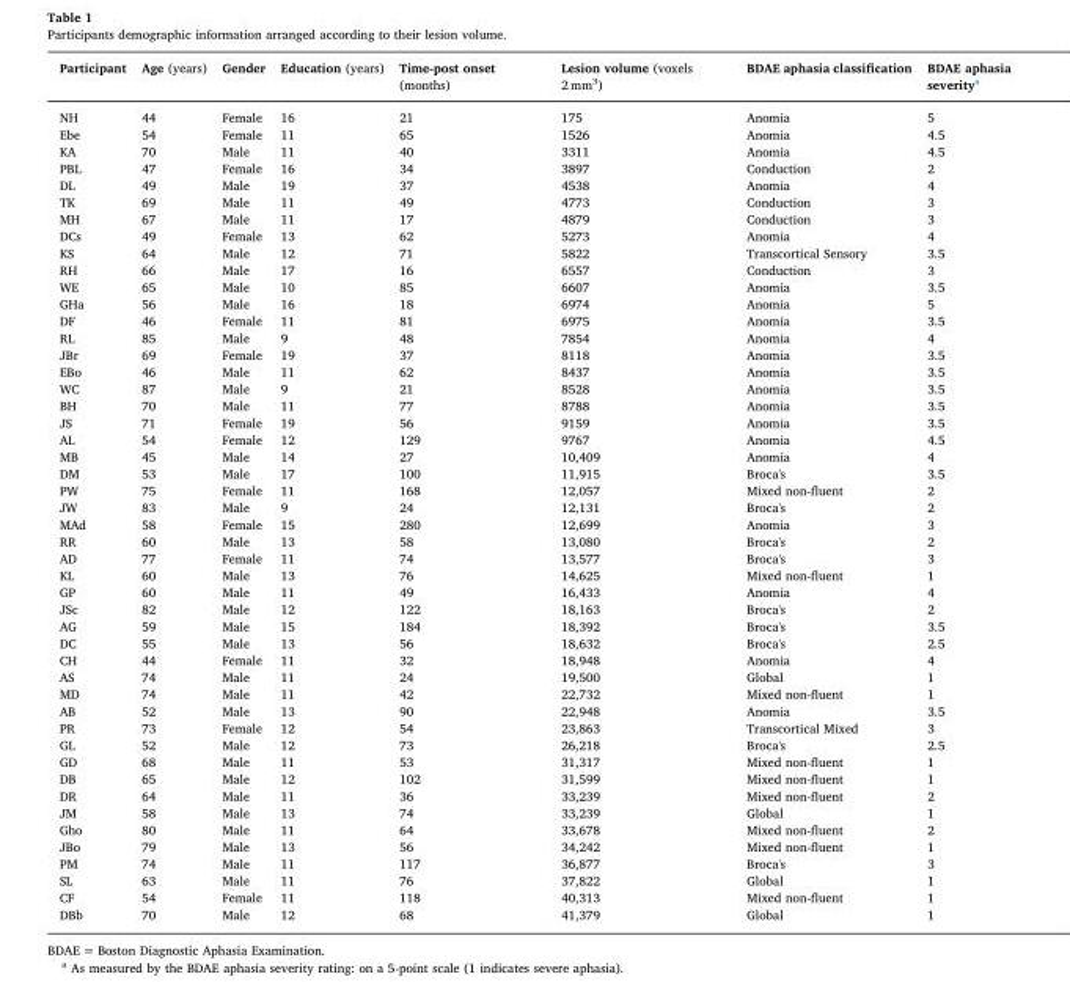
<table><thead><tr><td>Participant</td><td>Age (years)</td><td>Gender</td><td>Education (years)</td><td>Time-post onset (months)</td><td>Lesion volume (voxels 2 mm<sup>3</sup>)</td><td>BDAE aphasia classification</td><td>BDAE aphasia severity<sup>a</sup></td></tr></thead><tbody><tr><td>NH</td><td>44</td><td>Female</td><td>16</td><td>21</td><td>175</td><td>Anomia</td><td>5</td></tr><tr><td>Ebe</td><td>54</td><td>Female</td><td>11</td><td>65</td><td>1526</td><td>Anomia</td><td>4.5</td></tr><tr><td>KA</td><td>70</td><td>Male</td><td>11</td><td>40</td><td>3311</td><td>Anomia</td><td>4.5</td></tr><tr><td>PBL</td><td>47</td><td>Female</td><td>16</td><td>34</td><td>3897</td><td>Conduction</td><td>2</td></tr><tr><td>DL</td><td>49</td><td>Male</td><td>19</td><td>37</td><td>4538</td><td>Anomia</td><td>4</td></tr><tr><td>TK</td><td>69</td><td>Male</td><td>11</td><td>49</td><td>4773</td><td>Conduction</td><td>3</td></tr><tr><td>MH</td><td>67</td><td>Male</td><td>11</td><td>17</td><td>4879</td><td>Conduction</td><td>3</td></tr><tr><td>DCs</td><td>49</td><td>Female</td><td>13</td><td>62</td><td>5273</td><td>Anomia</td><td>4</td></tr><tr><td>KS</td><td>64</td><td>Male</td><td>12</td><td>71</td><td>5822</td><td>Transcortical Sensory</td><td>3.5</td></tr><tr><td>RH</td><td>66</td><td>Male</td><td>17</td><td>16</td><td>6557</td><td>Conduction</td><td>3</td></tr><tr><td>WE</td><td>65</td><td>Male</td><td>10</td><td>85</td><td>6607</td><td>Anomia</td><td>3.5</td></tr><tr><td>GHa</td><td>56</td><td>Male</td><td>16</td><td>18</td><td>6974</td><td>Anomia</td><td>5</td></tr><tr><td>DF</td><td>46</td><td>Female</td><td>11</td><td>81</td><td>6975</td><td>Anomia</td><td>3.5</td></tr><tr><td>RL</td><td>85</td><td>Male</td><td>9</td><td>48</td><td>7854</td><td>Anomia</td><td>4</td></tr><tr><td>JBr</td><td>69</td><td>Female</td><td>19</td><td>37</td><td>8118</td><td>Anomia</td><td>3.5</td></tr><tr><td>EBo</td><td>46</td><td>Male</td><td>11</td><td>62</td><td>8437</td><td>Anomia</td><td>3.5</td></tr><tr><td>WC</td><td>87</td><td>Male</td><td>9</td><td>21</td><td>8528</td><td>Anomia</td><td>3.5</td></tr><tr><td>BH</td><td>70</td><td>Male</td><td>11</td><td>77</td><td>8788</td><td>Anomia</td><td>3.5</td></tr><tr><td>JS</td><td>71</td><td>Female</td><td>19</td><td>56</td><td>9159</td><td>Anomia</td><td>3.5</td></tr><tr><td>AL</td><td>54</td><td>Female</td><td>12</td><td>129</td><td>9767</td><td>Anomia</td><td>4.5</td></tr><tr><td>MB</td><td>45</td><td>Male</td><td>14</td><td>27</td><td>10,409</td><td>Anomia</td><td>4</td></tr><tr><td>DM</td><td>53</td><td>Male</td><td>17</td><td>100</td><td>11,915</td><td>Broca&#x27;s</td><td>3.5</td></tr><tr><td>PW</td><td>75</td><td>Female</td><td>11</td><td>168</td><td>12,057</td><td>Mixed non-fluent</td><td>2</td></tr><tr><td>JW</td><td>83</td><td>Male</td><td>9</td><td>24</td><td>12,131</td><td>Broca&#x27;s</td><td>2</td></tr><tr><td>MAd</td><td>58</td><td>Female</td><td>15</td><td>280</td><td>12,699</td><td>Anomia</td><td>3</td></tr><tr><td>RR</td><td>60</td><td>Male</td><td>13</td><td>58</td><td>13,080</td><td>Broca&#x27;s</td><td>2</td></tr><tr><td>AD</td><td>77</td><td>Female</td><td>11</td><td>74</td><td>13,577</td><td>Broca&#x27;s</td><td>3</td></tr><tr><td>KL</td><td>60</td><td>Male</td><td>13</td><td>76</td><td>14,625</td><td>Mixed non-fluent</td><td>1</td></tr><tr><td>GP</td><td>60</td><td>Male</td><td>11</td><td>49</td><td>16,433</td><td>Anomia</td><td>4</td></tr><tr><td>JSc</td><td>82</td><td>Male</td><td>12</td><td>122</td><td>18,163</td><td>Broca&#x27;s</td><td>2</td></tr><tr><td>AG</td><td>59</td><td>Male</td><td>15</td><td>184</td><td>18,392</td><td>Broca&#x27;s</td><td>3.5</td></tr><tr><td>DC</td><td>55</td><td>Male</td><td>13</td><td>56</td><td>18,632</td><td>Broca&#x27;s</td><td>2.5</td></tr><tr><td>CH</td><td>44</td><td>Female</td><td>11</td><td>32</td><td>18,948</td><td>Anomia</td><td>4</td></tr><tr><td>AS</td><td>74</td><td>Male</td><td>11</td><td>24</td><td>19,500</td><td>Global</td><td>1</td></tr><tr><td>MD</td><td>74</td><td>Male</td><td>11</td><td>42</td><td>22,732</td><td>Mixed non-fluent</td><td>1</td></tr><tr><td>AB</td><td>52</td><td>Male</td><td>13</td><td>90</td><td>22,948</td><td>Anomia</td><td>3.5</td></tr><tr><td>PR</td><td>73</td><td>Female</td><td>12</td><td>54</td><td>23,863</td><td>Transcortical Mixed</td><td>3</td></tr><tr><td>GL</td><td>52</td><td>Male</td><td>12</td><td>73</td><td>26,218</td><td>Broca&#x27;s</td><td>2.5</td></tr><tr><td>GD</td><td>68</td><td>Male</td><td>11</td><td>53</td><td>31,317</td><td>Mixed non-fluent</td><td>1</td></tr><tr><td>DB</td><td>65</td><td>Male</td><td>12</td><td>102</td><td>31,599</td><td>Mixed non-fluent</td><td>1</td></tr><tr><td>DR</td><td>64</td><td>Male</td><td>11</td><td>36</td><td>33,239</td><td>Mixed non-fluent</td><td>2</td></tr><tr><td>JM</td><td>58</td><td>Male</td><td>13</td><td>74</td><td>33,239</td><td>Global</td><td>1</td></tr><tr><td>Gho</td><td>80</td><td>Male</td><td>11</td><td>64</td><td>33,678</td><td>Mixed non-fluent</td><td>2</td></tr><tr><td>JBo</td><td>79</td><td>Male</td><td>13</td><td>56</td><td>34,242</td><td>Mixed non-fluent</td><td>1</td></tr><tr><td>PM</td><td>74</td><td>Male</td><td>11</td><td>117</td><td>36,877</td><td>Broca&#x27;s</td><td>3</td></tr><tr><td>SL</td><td>63</td><td>Male</td><td>11</td><td>76</td><td>37,822</td><td>Global</td><td>1</td></tr><tr><td>CF</td><td>54</td><td>Female</td><td>11</td><td>118</td><td>40,313</td><td>Mixed non-fluent</td><td>1</td></tr><tr><td>DBb</td><td>70</td><td>Male</td><td>12</td><td>68</td><td>41,379</td><td>Global</td><td>1</td></tr></tbody></table>